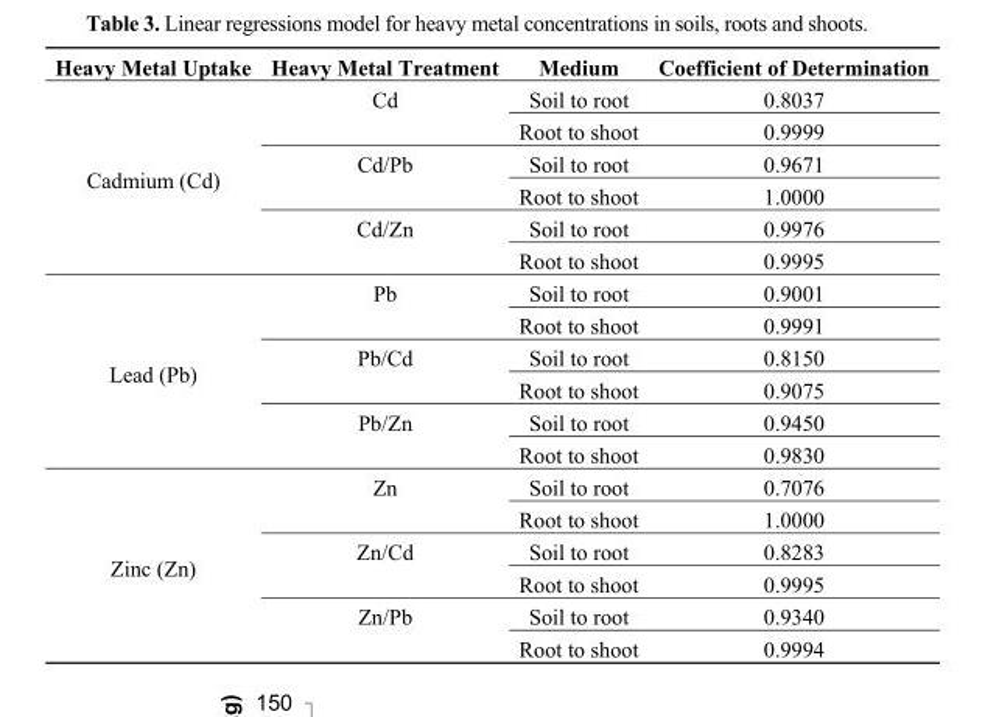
<table><thead><tr><td>Heavy Metal Uptake</td><td>Heavy Metal Treatment</td><td>Medium</td><td>Coefficient of Determination</td></tr></thead><tbody><tr><td rowspan="6">Cadmium (Cd)</td><td rowspan="2">Cd</td><td>Soil to root</td><td>0.8037</td></tr><tr><td>Root to shoot</td><td>0.9999</td></tr><tr><td rowspan="2">Cd/Pb</td><td>Soil to root</td><td>0.9671</td></tr><tr><td>Root to shoot</td><td>1.0000</td></tr><tr><td rowspan="2">Cd/Zn</td><td>Soil to root</td><td>0.9976</td></tr><tr><td>Root to shoot</td><td>0.9995</td></tr><tr><td rowspan="6">Lead (Pb)</td><td rowspan="2">Pb</td><td>Soil to root</td><td>0.9001</td></tr><tr><td>Root to shoot</td><td>0.9991</td></tr><tr><td rowspan="2">Pb/Cd</td><td>Soil to root</td><td>0.8150</td></tr><tr><td>Root to shoot</td><td>0.9075</td></tr><tr><td rowspan="2">Pb/Zn</td><td>Soil to root</td><td>0.9450</td></tr><tr><td>Root to shoot</td><td>0.9830</td></tr><tr><td rowspan="6">Zinc (Zn)</td><td rowspan="2">Zn</td><td>Soil to root</td><td>0.7076</td></tr><tr><td>Root to shoot</td><td>1.0000</td></tr><tr><td rowspan="2">Zn/Cd</td><td>Soil to root</td><td>0.8283</td></tr><tr><td>Root to shoot</td><td>0.9995</td></tr><tr><td rowspan="2">Zn/Pb</td><td>Soil to root</td><td>0.9340</td></tr><tr><td>Root to shoot</td><td>0.9994</td></tr></tbody></table>